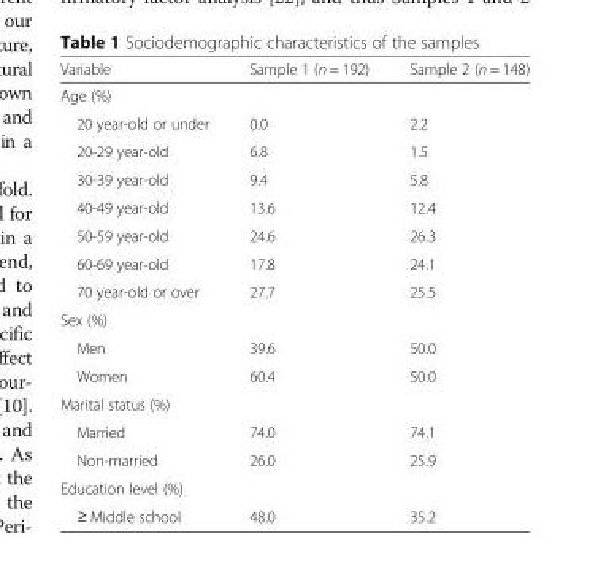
<table><thead><tr><td>Variable</td><td>Sample 1 (n = 192)</td><td>Sample 2 (n = 148)</td></tr></thead><tbody><tr><td colspan="3">Age (%)</td></tr><tr><td>20 year-old or under</td><td>0.0</td><td>2.2</td></tr><tr><td>20-29 year-old</td><td>6.8</td><td>1.5</td></tr><tr><td>30-39 year-old</td><td>9.4</td><td>5.8</td></tr><tr><td>40-49 year-old</td><td>13.6</td><td>12.4</td></tr><tr><td>50-59 year-old</td><td>24.6</td><td>26.3</td></tr><tr><td>60-69 year-old</td><td>17.8</td><td>24.1</td></tr><tr><td>70 year-old or over</td><td>27.7</td><td>25.5</td></tr><tr><td colspan="3">Sex (%)</td></tr><tr><td>Men</td><td>39.6</td><td>50.0</td></tr><tr><td>Women</td><td>60.4</td><td>50.0</td></tr><tr><td colspan="3">Marital status (%)</td></tr><tr><td>Married</td><td>74.0</td><td>74.1</td></tr><tr><td>Non-married</td><td>26.0</td><td>25.9</td></tr><tr><td colspan="3">Education level (%)</td></tr><tr><td>≥ Middle school</td><td>48.0</td><td>35.2</td></tr></tbody></table>